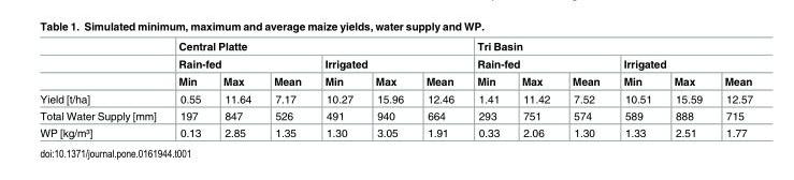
<table><thead><tr><td rowspan="3"></td><td colspan="6">Central Platte</td><td colspan="6">Tri Basin</td></tr><tr><td colspan="3">Rain-fed</td><td colspan="3">Irrigated</td><td colspan="3">Rain-fed</td><td colspan="3">Irrigated</td></tr><tr><td>Min</td><td>Max</td><td>Mean</td><td>Min</td><td>Max</td><td>Mean</td><td>Min</td><td>Max</td><td>Mean</td><td>Min</td><td>Max</td><td>Mean</td></tr></thead><tbody><tr><td>Yield [t/ha]</td><td>0.55</td><td>11.64</td><td>7.17</td><td>10.27</td><td>15.96</td><td>12.46</td><td>1.41</td><td>11.42</td><td>7.52</td><td>10.51</td><td>15.59</td><td>12.57</td></tr><tr><td>Total Water Supply [mm]</td><td>197</td><td>847</td><td>526</td><td>491</td><td>940</td><td>664</td><td>293</td><td>751</td><td>574</td><td>589</td><td>888</td><td>715</td></tr><tr><td>WP [kg/m³]</td><td>0.13</td><td>2.85</td><td>1.35</td><td>1.30</td><td>3.05</td><td>1.91</td><td>0.33</td><td>2.06</td><td>1.30</td><td>1.33</td><td>2.51</td><td>1.77</td></tr></tbody></table>